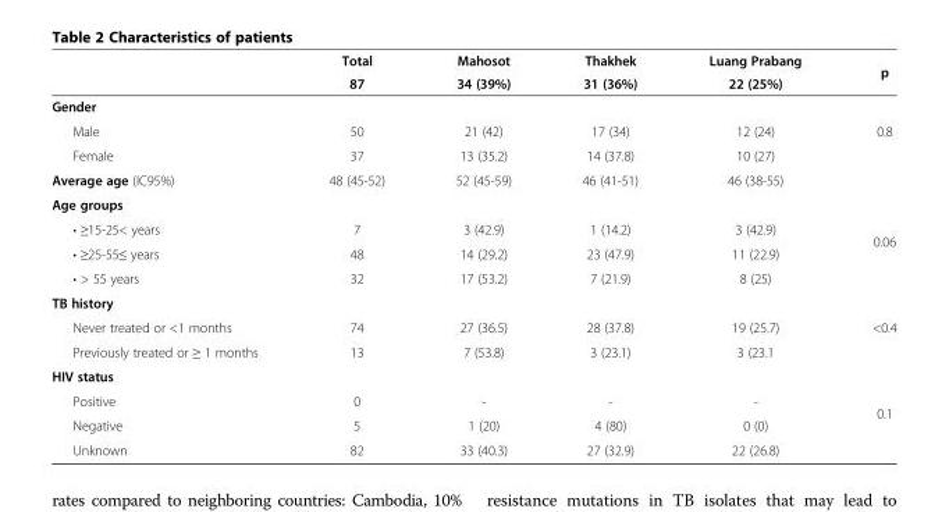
<table><thead><tr><td rowspan="2"></td><td rowspan="2">Total 87</td><td rowspan="2">Mahosot 34 (39%)</td><td rowspan="2">Thakhek 31 (36%)</td><td rowspan="2">Luang Prabang 22 (25%)</td><td rowspan="2">p</td></tr><tr></tr></thead><tbody><tr><td colspan="5">Gender</td><td rowspan="3">0.8</td></tr><tr><td>Male</td><td>50</td><td>21 (42)</td><td>17 (34)</td><td>12 (24)</td></tr><tr><td>Female</td><td>37</td><td>13 (35.2)</td><td>14 (37.8)</td><td>10 (27)</td></tr><tr><td>Average age (IC95%)</td><td>48 (45-52)</td><td>52 (45-59)</td><td>46 (41-51)</td><td>46 (38-55)</td><td></td></tr><tr><td colspan="5">Age groups</td><td rowspan="4">0.06</td></tr><tr><td>• ≥15-25&lt; years</td><td>7</td><td>3 (42.9)</td><td>1 (14.2)</td><td>3 (42.9)</td></tr><tr><td>• ≥25-55≤ years</td><td>48</td><td>14 (29.2)</td><td>23 (47.9)</td><td>11 (22.9)</td></tr><tr><td>• &gt; 55 years</td><td>32</td><td>17 (53.2)</td><td>7 (21.9)</td><td>8 (25)</td></tr><tr><td colspan="5">TB history</td><td rowspan="3">&lt;0.4</td></tr><tr><td>Never treated or &lt;1 months</td><td>74</td><td>27 (36.5)</td><td>28 (37.8)</td><td>19 (25.7)</td></tr><tr><td>Previously treated or ≥ 1 months</td><td>13</td><td>7 (53.8)</td><td>3 (23.1)</td><td>3 (23.1</td></tr><tr><td colspan="5">HIV status</td><td rowspan="4">0.1</td></tr><tr><td>Positive</td><td>0</td><td>-</td><td>-</td><td>-</td></tr><tr><td>Negative</td><td>5</td><td>1 (20)</td><td>4 (80)</td><td>0 (0)</td></tr><tr><td>Unknown</td><td>82</td><td>33 (40.3)</td><td>27 (32.9)</td><td>22 (26.8)</td></tr></tbody></table>